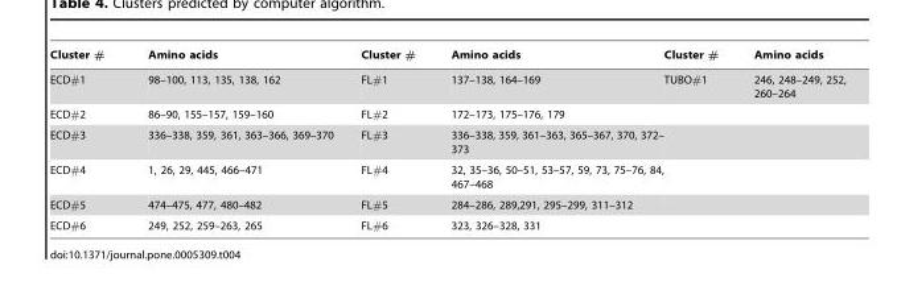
<table><thead><tr><td>Cluster #</td><td>Amino acids</td><td>Cluster #</td><td>Amino acids</td><td>Cluster #</td><td>Amino acids</td></tr></thead><tbody><tr><td>ECD#1</td><td>98–100, 113, 135, 138, 162</td><td>FL#1</td><td>137–138, 164–169</td><td>TUBO#1</td><td>246, 248–249, 252, 260–264</td></tr><tr><td>ECD#2</td><td>86–90, 155–157, 159–160</td><td>FL#2</td><td>172–173, 175–176, 179</td><td></td><td></td></tr><tr><td>ECD#3</td><td>336–338, 359, 361, 363–366, 369–370</td><td>FL#3</td><td>336–338, 359, 361–363, 365–367, 370, 372– 373</td><td></td><td></td></tr><tr><td>ECD#4</td><td>1, 26, 29, 445, 466–471</td><td>FL#4</td><td>32, 35–36, 50–51, 53–57, 59, 73, 75–76, 84, 467–468</td><td></td><td></td></tr><tr><td>ECD#5</td><td>474–475, 477, 480–482</td><td>FL#5</td><td>284–286, 289,291, 295–299, 311–312</td><td></td><td></td></tr><tr><td>ECD#6</td><td>249, 252, 259–263, 265</td><td>FL#6</td><td>323, 326–328, 331</td><td></td><td></td></tr></tbody></table>